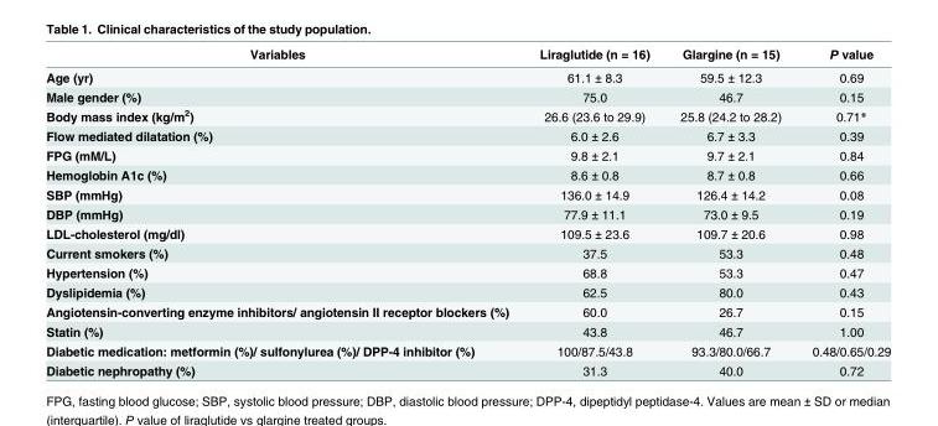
<table><thead><tr><td>Variables</td><td>Liraglutide (n = 16)</td><td>Glargine (n = 15)</td><td>P value</td></tr></thead><tbody><tr><td>Age (yr)</td><td>61.1 ± 8.3</td><td>59.5 ± 12.3</td><td>0.69</td></tr><tr><td>Male gender (%)</td><td>75.0</td><td>46.7</td><td>0.15</td></tr><tr><td>Body mass index (kg/m<sup>2</sup>)</td><td>26.6 (23.6 to 29.9)</td><td>25.8 (24.2 to 28.2)</td><td>0.71*</td></tr><tr><td>Flow mediated dilatation (%)</td><td>6.0 ± 2.6</td><td>6.7 ± 3.3</td><td>0.39</td></tr><tr><td>FPG (mM/L)</td><td>9.8 ± 2.1</td><td>9.7 ± 2.1</td><td>0.84</td></tr><tr><td>Hemoglobin A1c (%)</td><td>8.6 ± 0.8</td><td>8.7 ± 0.8</td><td>0.66</td></tr><tr><td>SBP (mmHg)</td><td>136.0 ± 14.9</td><td>126.4 ± 14.2</td><td>0.08</td></tr><tr><td>DBP (mmHg)</td><td>77.9 ± 11.1</td><td>73.0 ± 9.5</td><td>0.19</td></tr><tr><td>LDL-cholesterol (mg/dl)</td><td>109.5 ± 23.6</td><td>109.7 ± 20.6</td><td>0.98</td></tr><tr><td>Current smokers (%)</td><td>37.5</td><td>53.3</td><td>0.48</td></tr><tr><td>Hypertension (%)</td><td>68.8</td><td>53.3</td><td>0.47</td></tr><tr><td>Dyslipidemia (%)</td><td>62.5</td><td>80.0</td><td>0.43</td></tr><tr><td>Angiotensin-converting enzyme inhibitors/ angiotensin II receptor blockers (%)</td><td>60.0</td><td>26.7</td><td>0.15</td></tr><tr><td>Statin (%)</td><td>43.8</td><td>46.7</td><td>1.00</td></tr><tr><td>Diabetic medication: metformin (%)/ sulfonylurea (%)/ DPP-4 inhibitor (%)</td><td>100/87.5/43.8</td><td>93.3/80.0/66.7</td><td>0.48/0.65/0.29</td></tr><tr><td>Diabetic nephropathy (%)</td><td>31.3</td><td>40.0</td><td>0.72</td></tr></tbody></table>